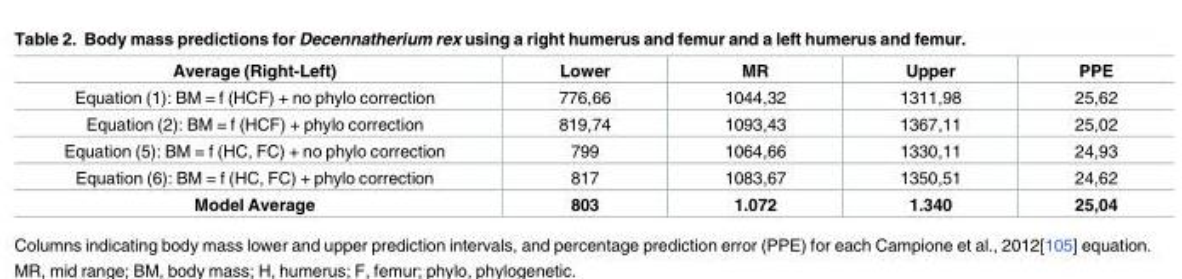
<table><thead><tr><td>Average (Right-Left)</td><td>Lower</td><td>MR</td><td>Upper</td><td>PPE</td></tr></thead><tbody><tr><td>Equation (1): BM = f (HCF) + no phylo correction</td><td>776,66</td><td>1044,32</td><td>1311,98</td><td>25,62</td></tr><tr><td>Equation (2): BM = f (HCF) + phylo correction</td><td>819,74</td><td>1093,43</td><td>1367,11</td><td>25,02</td></tr><tr><td>Equation (5): BM = f (HC, FC) + no phylo correction</td><td>799</td><td>1064,66</td><td>1330,11</td><td>24,93</td></tr><tr><td>Equation (6): BM = f (HC, FC) + phylo correction</td><td>817</td><td>1083,67</td><td>1350,51</td><td>24,62</td></tr><tr><td>Model Average</td><td>803</td><td>1.072</td><td>1.340</td><td>25,04</td></tr></tbody></table>